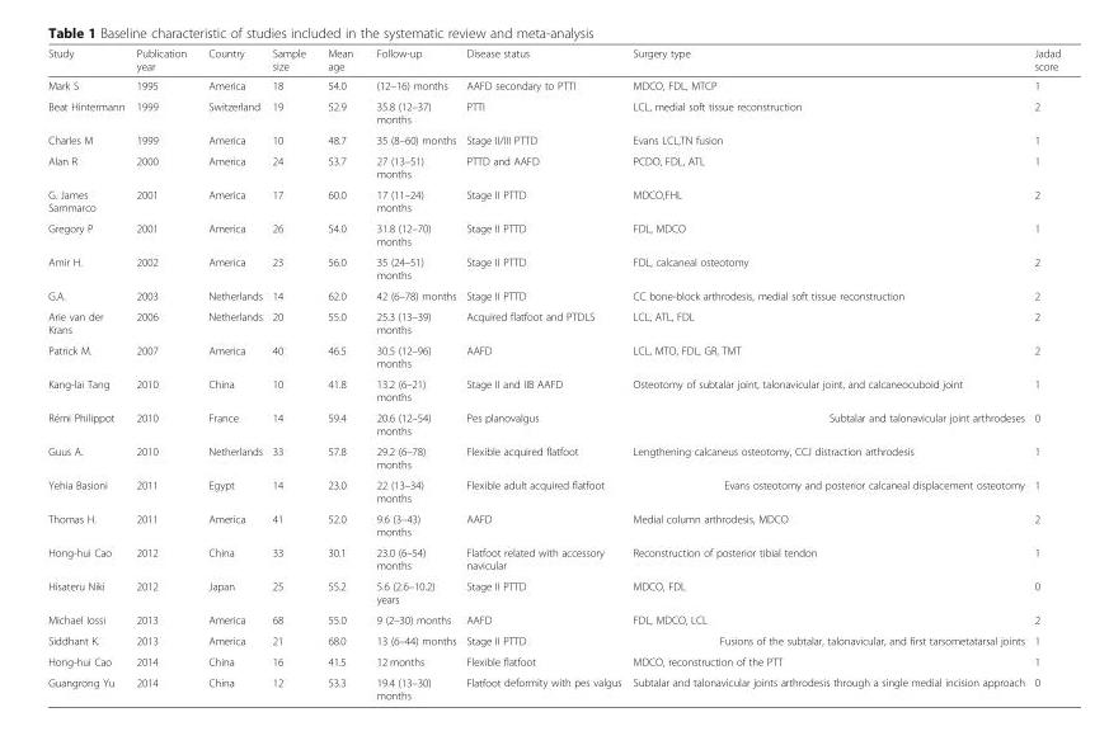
<table><thead><tr><td>Study</td><td>Publication year</td><td>Country</td><td>Sample size</td><td>Mean age</td><td>Follow-up</td><td>Disease status</td><td>Surgery type</td><td>Jadad score</td></tr></thead><tbody><tr><td>Mark S</td><td>1995</td><td>America</td><td>18</td><td>54.0</td><td>(12–16) months</td><td>AAFD secondary to PTTI</td><td>MDCO, FDL, MTCP</td><td>1</td></tr><tr><td>Beat Hintermann</td><td>1999</td><td>Switzerland</td><td>19</td><td>52.9</td><td>35.8 (12–37) months</td><td>PTTI</td><td>LCL, medial soft tissue reconstruction</td><td>2</td></tr><tr><td>Charles M</td><td>1999</td><td>America</td><td>10</td><td>48.7</td><td>35 (8–60) months</td><td>Stage II/III PTTD</td><td>Evans LCL,TN fusion</td><td>1</td></tr><tr><td>Alan R</td><td>2000</td><td>America</td><td>24</td><td>53.7</td><td>27 (13–51) months</td><td>PTTD and AAFD</td><td>PCDO, FDL, ATL</td><td>1</td></tr><tr><td>G. James Sammarco</td><td>2001</td><td>America</td><td>17</td><td>60.0</td><td>17 (11–24) months</td><td>Stage II PTTD</td><td>MDCO,FHL</td><td>2</td></tr><tr><td>Gregory P</td><td>2001</td><td>America</td><td>26</td><td>54.0</td><td>31.8 (12–70) months</td><td>Stage II PTTD</td><td>FDL, MDCO</td><td>1</td></tr><tr><td>Amir H.</td><td>2002</td><td>America</td><td>23</td><td>56.0</td><td>35 (24–51) months</td><td>Stage II PTTD</td><td>FDL, calcaneal osteotomy</td><td>2</td></tr><tr><td>G.A.</td><td>2003</td><td>Netherlands</td><td>14</td><td>62.0</td><td>42 (6–78) months</td><td>Stage II PTTD</td><td>CC bone-block arthrodesis, medial soft tissue reconstruction</td><td>2</td></tr><tr><td>Arie van der Krans</td><td>2006</td><td>Netherlands</td><td>20</td><td>55.0</td><td>25.3 (13–39) months</td><td>Acquired flatfoot and PTDLS</td><td>LCL, ATL, FDL</td><td>2</td></tr><tr><td>Patrick M.</td><td>2007</td><td>America</td><td>40</td><td>46.5</td><td>30.5 (12–96) months</td><td>AAFD</td><td>LCL, MTO, FDL, GR, TMT</td><td>2</td></tr><tr><td>Kang-lai Tang</td><td>2010</td><td>China</td><td>10</td><td>41.8</td><td>13.2 (6–21) months</td><td>Stage II and IIB AAFD</td><td>Osteotomy of subtalar joint, talonavicular joint, and calcaneocuboid joint</td><td>1</td></tr><tr><td>Rémi Philippot</td><td>2010</td><td>France</td><td>14</td><td>59.4</td><td>20.6 (12–54) months</td><td>Pes planovalgus</td><td>Subtalar and talonavicular joint arthrodeses</td><td>0</td></tr><tr><td>Guus A.</td><td>2010</td><td>Netherlands</td><td>33</td><td>57.8</td><td>29.2 (6–78) months</td><td>Flexible acquired flatfoot</td><td>Lengthening calcaneus osteotomy, CCJ distraction arthrodesis</td><td>1</td></tr><tr><td>Yehia Basioni</td><td>2011</td><td>Egypt</td><td>14</td><td>23.0</td><td>22 (13–34) months</td><td>Flexible adult acquired flatfoot</td><td>Evans osteotomy and posterior calcaneal displacement osteotomy</td><td>1</td></tr><tr><td>Thomas H.</td><td>2011</td><td>America</td><td>41</td><td>52.0</td><td>9.6 (3–43) months</td><td>AAFD</td><td>Medial column arthrodesis, MDCO</td><td>2</td></tr><tr><td>Hong-hui Cao</td><td>2012</td><td>China</td><td>33</td><td>30.1</td><td>23.0 (6–54) months</td><td>Flatfoot related with accessory navicular</td><td>Reconstruction of posterior tibial tendon</td><td>1</td></tr><tr><td>Hisateru Niki</td><td>2012</td><td>Japan</td><td>25</td><td>55.2</td><td>5.6 (2.6–10.2) years</td><td>Stage II PTTD</td><td>MDCO, FDL</td><td>0</td></tr><tr><td>Michael Iossi</td><td>2013</td><td>America</td><td>68</td><td>55.0</td><td>9 (2–30) months</td><td>AAFD</td><td>FDL, MDCO, LCL</td><td>2</td></tr><tr><td>Siddhant K.</td><td>2013</td><td>America</td><td>21</td><td>68.0</td><td>13 (6–44) months</td><td>Stage II PTTD</td><td>Fusions of the subtalar, talonavicular, and first tarsometatarsal joints</td><td>1</td></tr><tr><td>Hong-hui Cao</td><td>2014</td><td>China</td><td>16</td><td>41.5</td><td>12 months</td><td>Flexible flatfoot</td><td>MDCO, reconstruction of the PTT</td><td>1</td></tr><tr><td>Guangrong Yu</td><td>2014</td><td>China</td><td>12</td><td>53.3</td><td>19.4 (13–30) months</td><td>Flatfoot deformity with pes valgus</td><td>Subtalar and talonavicular joints arthrodesis through a single medial incision approach</td><td>0</td></tr></tbody></table>